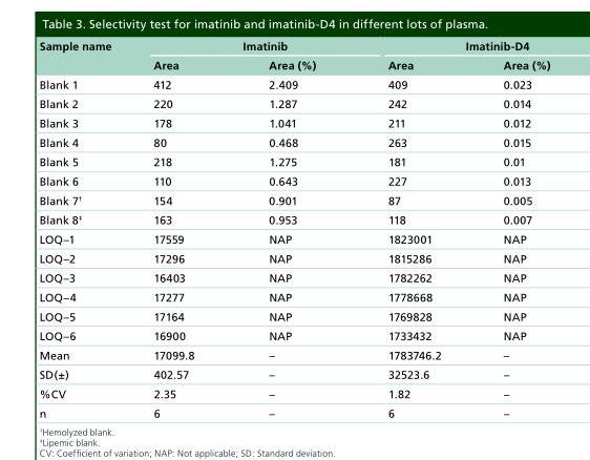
<table><thead><tr><td rowspan="2">Sample name</td><td colspan="2">Imatinib</td><td colspan="2">Imatinib-D4</td></tr><tr><td>Area</td><td>Area (%)</td><td>Area</td><td>Area (%)</td></tr></thead><tbody><tr><td>Blank 1</td><td>412</td><td>2.409</td><td>409</td><td>0.023</td></tr><tr><td>Blank 2</td><td>220</td><td>1.287</td><td>242</td><td>0.014</td></tr><tr><td>Blank 3</td><td>178</td><td>1.041</td><td>211</td><td>0.012</td></tr><tr><td>Blank 4</td><td>80</td><td>0.468</td><td>263</td><td>0.015</td></tr><tr><td>Blank 5</td><td>218</td><td>1.275</td><td>181</td><td>0.01</td></tr><tr><td>Blank 6</td><td>110</td><td>0.643</td><td>227</td><td>0.013</td></tr><tr><td>Blank 7<sup>†</sup></td><td>154</td><td>0.901</td><td>87</td><td>0.005</td></tr><tr><td>Blank 8<sup>‡</sup></td><td>163</td><td>0.953</td><td>118</td><td>0.007</td></tr><tr><td>LOQ–1</td><td>17559</td><td>NAP</td><td>1823001</td><td>NAP</td></tr><tr><td>LOQ–2</td><td>17296</td><td>NAP</td><td>1815286</td><td>NAP</td></tr><tr><td>LOQ–3</td><td>16403</td><td>NAP</td><td>1782262</td><td>NAP</td></tr><tr><td>LOQ–4</td><td>17277</td><td>NAP</td><td>1778668</td><td>NAP</td></tr><tr><td>LOQ–5</td><td>17164</td><td>NAP</td><td>1769828</td><td>NAP</td></tr><tr><td>LOQ–6</td><td>16900</td><td>NAP</td><td>1733432</td><td>NAP</td></tr><tr><td>Mean</td><td>17099.8</td><td>–</td><td>1783746.2</td><td>–</td></tr><tr><td>SD(±)</td><td>402.57</td><td>–</td><td>32523.6</td><td>–</td></tr><tr><td>%CV</td><td>2.35</td><td>–</td><td>1.82</td><td>–</td></tr><tr><td>n</td><td>6</td><td>–</td><td>6</td><td>–</td></tr></tbody></table>